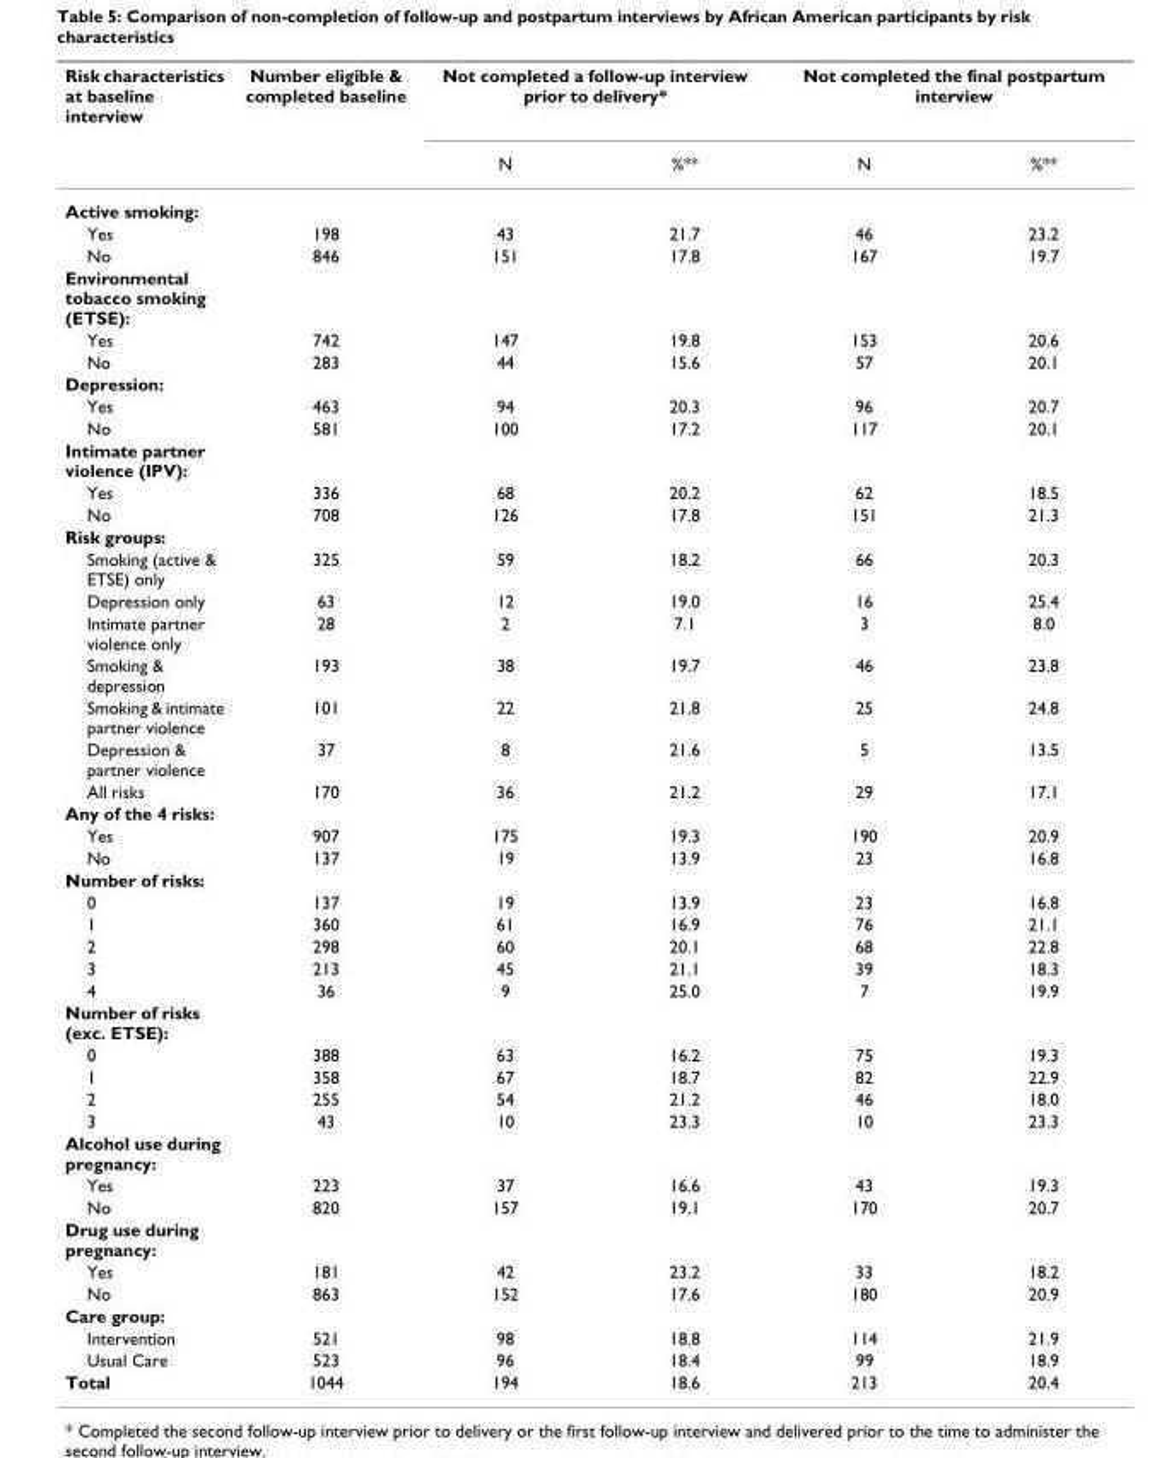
<table><thead><tr><td rowspan="2">Risk characteristics at baseline interview</td><td rowspan="2">Number eligible &amp; completed baseline</td><td colspan="2">Not completed a follow-up interview prior to delivery*</td><td colspan="2">Not completed the final postpartum interview</td></tr><tr><td>N</td><td>%**</td><td>N</td><td>%**</td></tr></thead><tbody><tr><td colspan="6">Active smoking:</td></tr><tr><td>Yes</td><td>198</td><td>43</td><td>21.7</td><td>46</td><td>23.2</td></tr><tr><td>No</td><td>846</td><td>151</td><td>17.8</td><td>167</td><td>19.7</td></tr><tr><td colspan="6">Environmental tobacco smoking (ETSE):</td></tr><tr><td>Yes</td><td>742</td><td>147</td><td>19.8</td><td>153</td><td>20.6</td></tr><tr><td>No</td><td>283</td><td>44</td><td>15.6</td><td>57</td><td>20.1</td></tr><tr><td colspan="6">Depression:</td></tr><tr><td>Yes</td><td>463</td><td>94</td><td>20.3</td><td>96</td><td>20.7</td></tr><tr><td>No</td><td>581</td><td>100</td><td>17.2</td><td>117</td><td>20.1</td></tr><tr><td colspan="6">Intimate partner violence (IPV):</td></tr><tr><td>Yes</td><td>336</td><td>68</td><td>20.2</td><td>62</td><td>18.5</td></tr><tr><td>No</td><td>708</td><td>126</td><td>17.8</td><td>151</td><td>21.3</td></tr><tr><td colspan="6">Risk groups:</td></tr><tr><td>Smoking (active &amp; ETSE) only</td><td>325</td><td>59</td><td>18.2</td><td>66</td><td>20.3</td></tr><tr><td>Depression only</td><td>63</td><td>12</td><td>19.0</td><td>16</td><td>25.4</td></tr><tr><td>Intimate partner violence only</td><td>28</td><td>2</td><td>7.1</td><td>3</td><td>8.0</td></tr><tr><td>Smoking &amp; depression</td><td>193</td><td>38</td><td>19.7</td><td>46</td><td>23.8</td></tr><tr><td>Smoking &amp; intimate partner violence</td><td>101</td><td>22</td><td>21.8</td><td>25</td><td>24.8</td></tr><tr><td>Depression &amp; partner violence</td><td>37</td><td>8</td><td>21.6</td><td>5</td><td>13.5</td></tr><tr><td>All risks</td><td>170</td><td>36</td><td>21.2</td><td>29</td><td>17.1</td></tr><tr><td colspan="6">Any of the 4 risks:</td></tr><tr><td>Yes</td><td>907</td><td>175</td><td>19.3</td><td>190</td><td>20.9</td></tr><tr><td>No</td><td>137</td><td>19</td><td>13.9</td><td>23</td><td>16.8</td></tr><tr><td colspan="6">Number of risks:</td></tr><tr><td>0</td><td>137</td><td>19</td><td>13.9</td><td>23</td><td>16.8</td></tr><tr><td>1</td><td>360</td><td>61</td><td>16.9</td><td>76</td><td>21.1</td></tr><tr><td>2</td><td>298</td><td>60</td><td>20.1</td><td>68</td><td>22.8</td></tr><tr><td>3</td><td>213</td><td>45</td><td>21.1</td><td>39</td><td>18.3</td></tr><tr><td>4</td><td>36</td><td>9</td><td>25.0</td><td>7</td><td>19.9</td></tr><tr><td colspan="6">Number of risks (exc. ETSE):</td></tr><tr><td>0</td><td>388</td><td>63</td><td>16.2</td><td>75</td><td>19.3</td></tr><tr><td>1</td><td>358</td><td>67</td><td>18.7</td><td>82</td><td>22.9</td></tr><tr><td>2</td><td>255</td><td>54</td><td>21.2</td><td>46</td><td>18.0</td></tr><tr><td>3</td><td>43</td><td>10</td><td>23.3</td><td>10</td><td>23.3</td></tr><tr><td colspan="6">Alcohol use during pregnancy:</td></tr><tr><td>Yes</td><td>223</td><td>37</td><td>16.6</td><td>43</td><td>19.3</td></tr><tr><td>No</td><td>820</td><td>157</td><td>19.1</td><td>170</td><td>20.7</td></tr><tr><td colspan="6">Drug use during pregnancy:</td></tr><tr><td>Yes</td><td>181</td><td>42</td><td>23.2</td><td>33</td><td>18.2</td></tr><tr><td>No</td><td>863</td><td>152</td><td>17.6</td><td>180</td><td>20.9</td></tr><tr><td colspan="6">Care group:</td></tr><tr><td>Intervention</td><td>521</td><td>98</td><td>18.8</td><td>114</td><td>21.9</td></tr><tr><td>Usual Care</td><td>523</td><td>96</td><td>18.4</td><td>99</td><td>18.9</td></tr><tr><td>Total</td><td>1044</td><td>194</td><td>18.6</td><td>213</td><td>20.4</td></tr></tbody></table>